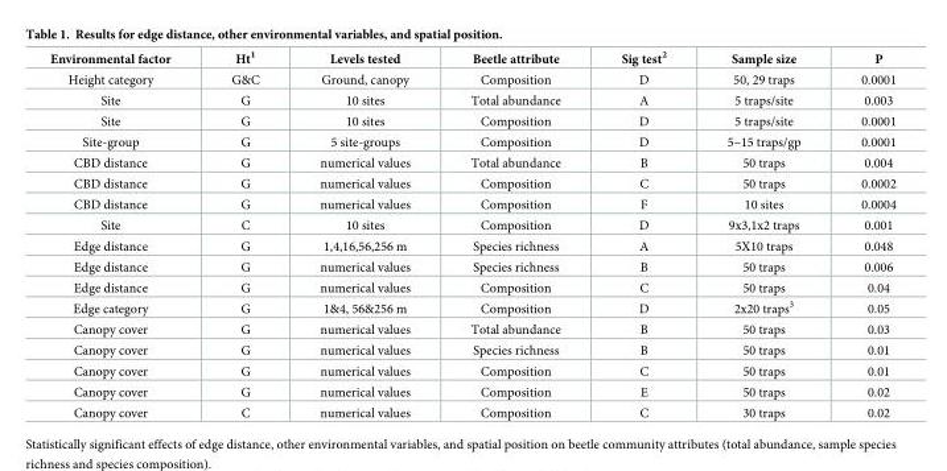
<table><thead><tr><td>Environmental factor</td><td>Ht<sup>1</sup></td><td>Levels tested</td><td>Beetle attribute</td><td>Sig test<sup>2</sup></td><td>Sample size</td><td>P</td></tr></thead><tbody><tr><td>Height category</td><td>G&amp;C</td><td>Ground, canopy</td><td>Composition</td><td>D</td><td>50, 29 traps</td><td>0.0001</td></tr><tr><td>Site</td><td>G</td><td>10 sites</td><td>Total abundance</td><td>A</td><td>5 traps/site</td><td>0.003</td></tr><tr><td>Site</td><td>G</td><td>10 sites</td><td>Composition</td><td>D</td><td>5 traps/site</td><td>0.0001</td></tr><tr><td>Site-group</td><td>G</td><td>5 site-groups</td><td>Composition</td><td>D</td><td>5–15 traps/gp</td><td>0.0001</td></tr><tr><td>CBD distance</td><td>G</td><td>numerical values</td><td>Total abundance</td><td>B</td><td>50 traps</td><td>0.004</td></tr><tr><td>CBD distance</td><td>G</td><td>numerical values</td><td>Composition</td><td>C</td><td>50 traps</td><td>0.0002</td></tr><tr><td>CBD distance</td><td>G</td><td>numerical values</td><td>Composition</td><td>F</td><td>10 sites</td><td>0.0004</td></tr><tr><td>Site</td><td>C</td><td>10 sites</td><td>Composition</td><td>D</td><td>9x3,1x2 traps</td><td>0.001</td></tr><tr><td>Edge distance</td><td>G</td><td>1,4,16,56,256 m</td><td>Species richness</td><td>A</td><td>5X10 traps</td><td>0.048</td></tr><tr><td>Edge distance</td><td>G</td><td>numerical values</td><td>Species richness</td><td>B</td><td>50 traps</td><td>0.006</td></tr><tr><td>Edge distance</td><td>G</td><td>numerical values</td><td>Composition</td><td>C</td><td>50 traps</td><td>0.04</td></tr><tr><td>Edge category</td><td>G</td><td>1&amp;4, 56&amp;256 m</td><td>Composition</td><td>D</td><td>2x20 traps<sup>3</sup></td><td>0.05</td></tr><tr><td>Canopy cover</td><td>G</td><td>numerical values</td><td>Total abundance</td><td>B</td><td>50 traps</td><td>0.03</td></tr><tr><td>Canopy cover</td><td>G</td><td>numerical values</td><td>Species richness</td><td>B</td><td>50 traps</td><td>0.01</td></tr><tr><td>Canopy cover</td><td>G</td><td>numerical values</td><td>Composition</td><td>C</td><td>50 traps</td><td>0.01</td></tr><tr><td>Canopy cover</td><td>G</td><td>numerical values</td><td>Composition</td><td>E</td><td>50 traps</td><td>0.02</td></tr><tr><td>Canopy cover</td><td>C</td><td>numerical values</td><td>Composition</td><td>C</td><td>30 traps</td><td>0.02</td></tr></tbody></table>